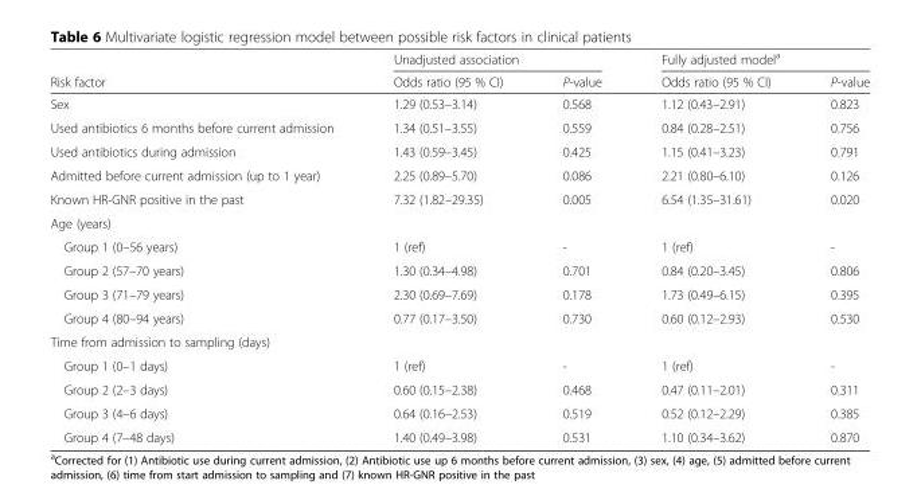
<table><thead><tr><td rowspan="2">Risk factor</td><td colspan="2">Unadjusted association</td><td colspan="2">Fully adjusted model<sup>a</sup></td></tr><tr><td>Odds ratio (95 % CI)</td><td>P-value</td><td>Odds ratio (95 % CI)</td><td>P-value</td></tr></thead><tbody><tr><td>Sex</td><td>1.29 (0.53–3.14)</td><td>0.568</td><td>1.12 (0.43–2.91)</td><td>0.823</td></tr><tr><td>Used antibiotics 6 months before current admission</td><td>1.34 (0.51–3.55)</td><td>0.559</td><td>0.84 (0.28–2.51)</td><td>0.756</td></tr><tr><td>Used antibiotics during admission</td><td>1.43 (0.59–3.45)</td><td>0.425</td><td>1.15 (0.41–3.23)</td><td>0.791</td></tr><tr><td>Admitted before current admission (up to 1 year)</td><td>2.25 (0.89–5.70)</td><td>0.086</td><td>2.21 (0.80–6.10)</td><td>0.126</td></tr><tr><td>Known HR-GNR positive in the past</td><td>7.32 (1.82–29.35)</td><td>0.005</td><td>6.54 (1.35–31.61)</td><td>0.020</td></tr><tr><td colspan="5">Age (years)</td></tr><tr><td>Group 1 (0–56 years)</td><td>1 (ref)</td><td>-</td><td>1 (ref)</td><td>-</td></tr><tr><td>Group 2 (57–70 years)</td><td>1.30 (0.34–4.98)</td><td>0.701</td><td>0.84 (0.20–3.45)</td><td>0.806</td></tr><tr><td>Group 3 (71–79 years)</td><td>2.30 (0.69–7.69)</td><td>0.178</td><td>1.73 (0.49–6.15)</td><td>0.395</td></tr><tr><td>Group 4 (80–94 years)</td><td>0.77 (0.17–3.50)</td><td>0.730</td><td>0.60 (0.12–2.93)</td><td>0.530</td></tr><tr><td colspan="5">Time from admission to sampling (days)</td></tr><tr><td>Group 1 (0–1 days)</td><td>1 (ref)</td><td>-</td><td>1 (ref)</td><td>-</td></tr><tr><td>Group 2 (2–3 days)</td><td>0.60 (0.15–2.38)</td><td>0.468</td><td>0.47 (0.11–2.01)</td><td>0.311</td></tr><tr><td>Group 3 (4–6 days)</td><td>0.64 (0.16–2.53)</td><td>0.519</td><td>0.52 (0.12–2.29)</td><td>0.385</td></tr><tr><td>Group 4 (7–48 days)</td><td>1.40 (0.49–3.98)</td><td>0.531</td><td>1.10 (0.34–3.62)</td><td>0.870</td></tr></tbody></table>